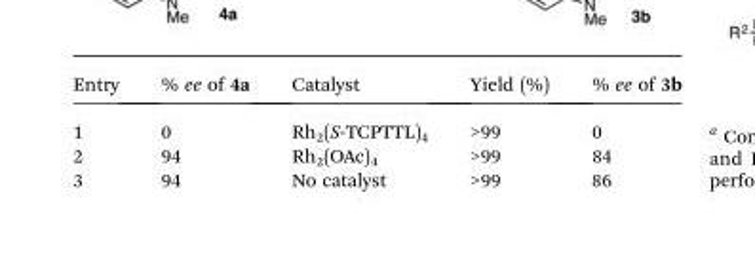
<table><thead><tr><td>Entry</td><td>% ee of 4a</td><td>Catalyst</td><td>Yield (%)</td><td>% ee of 3b</td></tr></thead><tbody><tr><td>1</td><td>0</td><td>Rh<sub>2</sub>(S-TCPTTL)<sub>4</sub></td><td>&gt;99</td><td>0</td></tr><tr><td>2</td><td>94</td><td>Rh<sub>2</sub>(OAc)<sub>4</sub></td><td>&gt;99</td><td>84</td></tr><tr><td>3</td><td>94</td><td>No catalyst</td><td>&gt;99</td><td>86</td></tr></tbody></table>